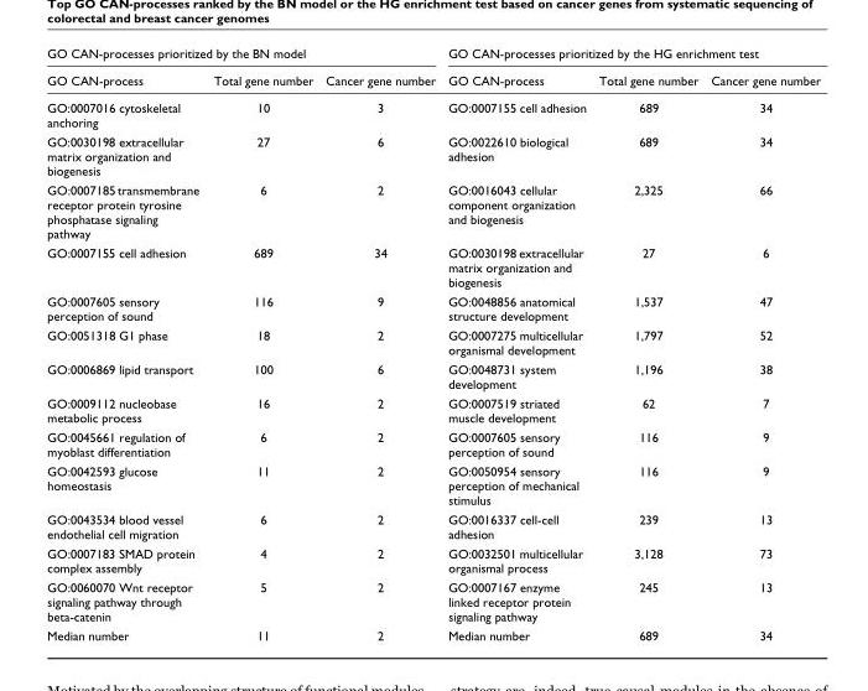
<table><thead><tr><td colspan="3">GO CAN-processes prioritized by the BN model</td><td colspan="3">GO CAN-processes prioritized by the HG enrichment test</td></tr><tr><td>GO CAN-process</td><td>Total gene number</td><td>Cancer gene number</td><td>GO CAN-process</td><td>Total gene number</td><td>Cancer gene number</td></tr></thead><tbody><tr><td>GO:0007016 cytoskeletal anchoring</td><td>10</td><td>3</td><td>GO:0007155 cell adhesion</td><td>689</td><td>34</td></tr><tr><td>GO:0030198 extracellular matrix organization and biogenesis</td><td>27</td><td>6</td><td>GO:0022610 biological adhesion</td><td>689</td><td>34</td></tr><tr><td>GO:0007185 transmembrane receptor protein tyrosine phosphatase signaling pathway</td><td>6</td><td>2</td><td>GO:0016043 cellular component organization and biogenesis</td><td>2,325</td><td>66</td></tr><tr><td>GO:0007155 cell adhesion</td><td>689</td><td>34</td><td>GO:0030198 extracellular matrix organization and biogenesis</td><td>27</td><td>6</td></tr><tr><td>GO:0007605 sensory perception of sound</td><td>116</td><td>9</td><td>GO:0048856 anatomical structure development</td><td>1,537</td><td>47</td></tr><tr><td>GO:0051318 G1 phase</td><td>18</td><td>2</td><td>GO:0007275 multicellular organismal development</td><td>1,797</td><td>52</td></tr><tr><td>GO:0006869 lipid transport</td><td>100</td><td>6</td><td>GO:0048731 system development</td><td>1,196</td><td>38</td></tr><tr><td>GO:0009112 nucleobase metabolic process</td><td>16</td><td>2</td><td>GO:0007519 striated muscle development</td><td>62</td><td>7</td></tr><tr><td>GO:0045661 regulation of myoblast differentiation</td><td>6</td><td>2</td><td>GO:0007605 sensory perception of sound</td><td>116</td><td>9</td></tr><tr><td>GO:0042593 glucose homeostasis</td><td>11</td><td>2</td><td>GO:0050954 sensory perception of mechanical stimulus</td><td>116</td><td>9</td></tr><tr><td>GO:0043534 blood vessel endothelial cell migration</td><td>6</td><td>2</td><td>GO:0016337 cell-cell adhesion</td><td>239</td><td>13</td></tr><tr><td>GO:0007183 SMAD protein complex assembly</td><td>4</td><td>2</td><td>GO:0032501 multicellular organismal process</td><td>3,128</td><td>73</td></tr><tr><td>GO:0060070 Wnt receptor signaling pathway through beta-catenin</td><td>5</td><td>2</td><td>GO:0007167 enzyme linked receptor protein signaling pathway</td><td>245</td><td>13</td></tr><tr><td>Median number</td><td>11</td><td>2</td><td>Median number</td><td>689</td><td>34</td></tr></tbody></table>